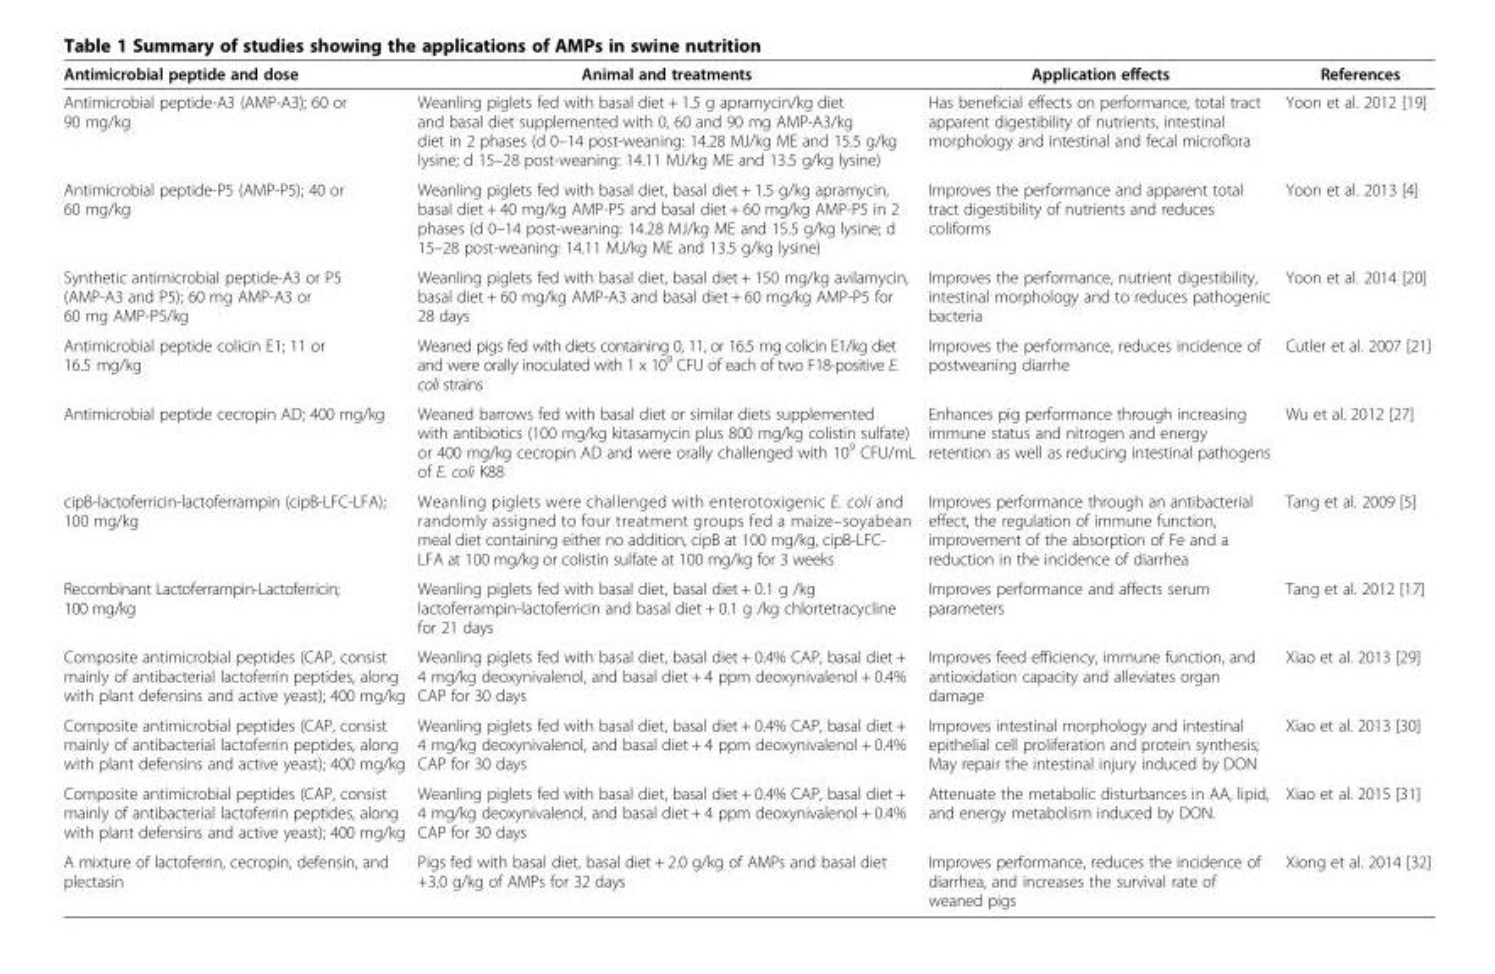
<table><thead><tr><td>Antimicrobial peptide and dose</td><td>Animal and treatments</td><td>Application effects</td><td>References</td></tr></thead><tbody><tr><td>Antimicrobial peptide-A3 (AMP-A3); 60 or 90 mg/kg</td><td>Weanling piglets fed with basal diet + 1.5 g apramycin/kg diet and basal diet supplemented with 0, 60 and 90 mg AMP-A3/kg diet in 2 phases (d 0–14 post-weaning: 14.28 MJ/kg ME and 15.5 g/kg lysine; d 15–28 post-weaning: 14.11 MJ/kg ME and 13.5 g/kg lysine)</td><td>Has beneficial effects on performance, total tract apparent digestibility of nutrients, intestinal morphology and intestinal and fecal microflora</td><td>Yoon et al. 2012 [19]</td></tr><tr><td>Antimicrobial peptide-P5 (AMP-P5); 40 or 60 mg/kg</td><td>Weanling piglets fed with basal diet, basal diet + 1.5 g/kg apramycin, basal diet + 40 mg/kg AMP-P5 and basal diet + 60 mg/kg AMP-P5 in 2 phases (d 0–14 post-weaning: 14.28 MJ/kg ME and 15.5 g/kg lysine; d 15–28 post-weaning: 14.11 MJ/kg ME and 13.5 g/kg lysine)</td><td>Improves the performance and apparent total tract digestibility of nutrients and reduces coliforms</td><td>Yoon et al. 2013 [4]</td></tr><tr><td>Synthetic antimicrobial peptide-A3 or P5 (AMP-A3 and P5); 60 mg AMP-A3 or 60 mg AMP-P5/kg</td><td>Weanling piglets fed with basal diet, basal diet + 150 mg/kg avilamycin, basal diet + 60 mg/kg AMP-A3 and basal diet + 60 mg/kg AMP-P5 for 28 days</td><td>Improves the performance, nutrient digestibility, intestinal morphology and to reduces pathogenic bacteria</td><td>Yoon et al. 2014 [20]</td></tr><tr><td>Antimicrobial peptide colicin E1; 11 or 16.5 mg/kg</td><td>Weaned pigs fed with diets containing 0, 11, or 16.5 mg colicin E1/kg diet and were orally inoculated with 1 x 10<sup>9</sup> CFU of each of two F18-positive E. coli strains</td><td>Improves the performance, reduces incidence of postweaning diarrhe</td><td>Cutler et al. 2007 [21]</td></tr><tr><td>Antimicrobial peptide cecropin AD; 400 mg/kg</td><td>Weaned barrows fed with basal diet or similar diets supplemented with antibiotics (100 mg/kg kitasamycin plus 800 mg/kg colistin sulfate) or 400 mg/kg cecropin AD and were orally challenged with 10<sup>9</sup> CFU/mL of E. coli K88</td><td>Enhances pig performance through increasing immune status and nitrogen and energy retention as well as reducing intestinal pathogens</td><td>Wu et al. 2012 [27]</td></tr><tr><td>cipB-lactoferricin-lactoferrampin (cipB-LFC-LFA); 100 mg/kg</td><td>Weanling piglets were challenged with enterotoxigenic E. coli and randomly assigned to four treatment groups fed a maize–soyabean meal diet containing either no addition, cipB at 100 mg/kg, cipB-LFC- LFA at 100 mg/kg or colistin sulfate at 100 mg/kg for 3 weeks</td><td>Improves performance through an antibacterial effect, the regulation of immune function, improvement of the absorption of Fe and a reduction in the incidence of diarrhea</td><td>Tang et al. 2009 [5]</td></tr><tr><td>Recombinant Lactoferrampin-Lactoferricin; 100 mg/kg</td><td>Weanling piglets fed with basal diet, basal diet + 0.1 g /kg lactoferrampin-lactoferricin and basal diet + 0.1 g /kg chlortetracycline for 21 days</td><td>Improves performance and affects serum parameters</td><td>Tang et al. 2012 [17]</td></tr><tr><td>Composite antimicrobial peptides (CAP, consist mainly of antibacterial lactoferrin peptides, along with plant defensins and active yeast); 400 mg/kg</td><td>Weanling piglets fed with basal diet, basal diet + 0.4% CAP, basal diet + 4 mg/kg deoxynivalenol, and basal diet + 4 ppm deoxynivalenol + 0.4% CAP for 30 days</td><td>Improves feed efficiency, immune function, and antioxidation capacity and alleviates organ damage</td><td>Xiao et al. 2013 [29]</td></tr><tr><td>Composite antimicrobial peptides (CAP, consist mainly of antibacterial lactoferrin peptides, along with plant defensins and active yeast); 400 mg/kg</td><td>Weanling piglets fed with basal diet, basal diet + 0.4% CAP, basal diet + 4 mg/kg deoxynivalenol, and basal diet + 4 ppm deoxynivalenol + 0.4% CAP for 30 days</td><td>Improves intestinal morphology and intestinal epithelial cell proliferation and protein synthesis; May repair the intestinal injury induced by DON</td><td>Xiao et al. 2013 [30]</td></tr><tr><td>Composite antimicrobial peptides (CAP, consist mainly of antibacterial lactoferrin peptides, along with plant defensins and active yeast); 400 mg/kg</td><td>Weanling piglets fed with basal diet, basal diet + 0.4% CAP, basal diet + 4 mg/kg deoxynivalenol, and basal diet + 4 ppm deoxynivalenol + 0.4% CAP for 30 days</td><td>Attenuate the metabolic disturbances in AA, lipid, and energy metabolism induced by DON.</td><td>Xiao et al. 2015 [31]</td></tr><tr><td>A mixture of lactoferrin, cecropin, defensin, and plectasin</td><td>Pigs fed with basal diet, basal diet + 2.0 g/kg of AMPs and basal diet +3.0 g/kg of AMPs for 32 days</td><td>Improves performance, reduces the incidence of diarrhea, and increases the survival rate of weaned pigs</td><td>Xiong et al. 2014 [32]</td></tr></tbody></table>